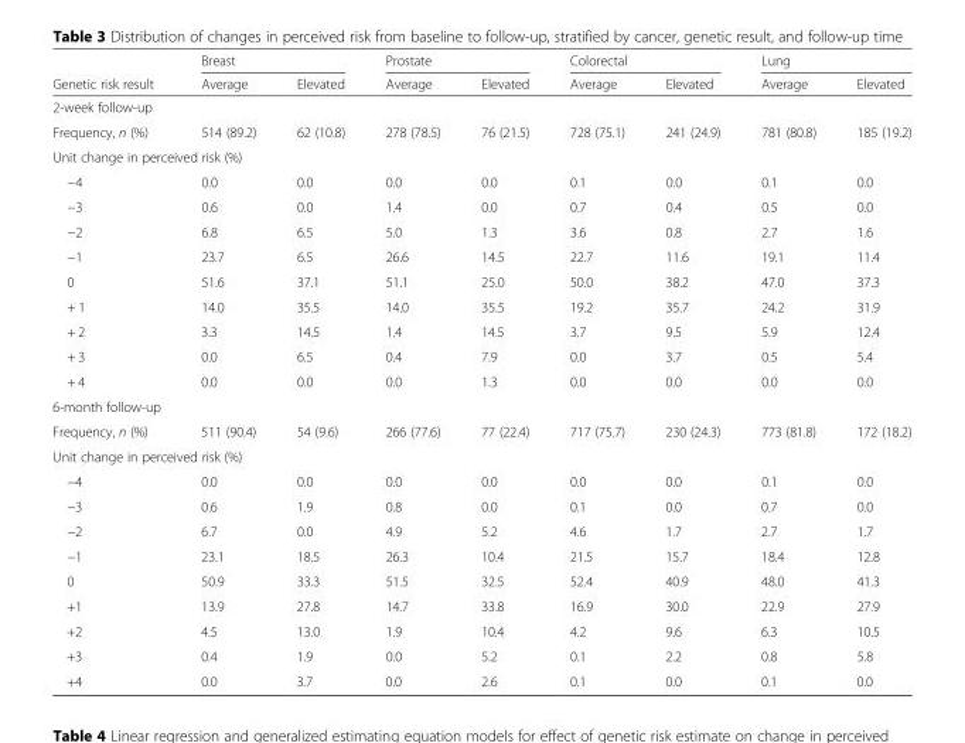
<table><thead><tr><td rowspan="2">Genetic risk result</td><td colspan="2">Breast</td><td colspan="2">Prostate</td><td colspan="2">Colorectal</td><td colspan="2">Lung</td></tr><tr><td>Average</td><td>Elevated</td><td>Average</td><td>Elevated</td><td>Average</td><td>Elevated</td><td>Average</td><td>Elevated</td></tr></thead><tbody><tr><td colspan="9">2-week follow-up</td></tr><tr><td>Frequency, n (%)</td><td>514 (89.2)</td><td>62 (10.8)</td><td>278 (78.5)</td><td>76 (21.5)</td><td>728 (75.1)</td><td>241 (24.9)</td><td>781 (80.8)</td><td>185 (19.2)</td></tr><tr><td colspan="9">Unit change in perceived risk (%)</td></tr><tr><td>−4</td><td>0.0</td><td>0.0</td><td>0.0</td><td>0.0</td><td>0.1</td><td>0.0</td><td>0.1</td><td>0.0</td></tr><tr><td>−3</td><td>0.6</td><td>0.0</td><td>1.4</td><td>0.0</td><td>0.7</td><td>0.4</td><td>0.5</td><td>0.0</td></tr><tr><td>−2</td><td>6.8</td><td>6.5</td><td>5.0</td><td>1.3</td><td>3.6</td><td>0.8</td><td>2.7</td><td>1.6</td></tr><tr><td>−1</td><td>23.7</td><td>6.5</td><td>26.6</td><td>14.5</td><td>22.7</td><td>11.6</td><td>19.1</td><td>11.4</td></tr><tr><td>0</td><td>51.6</td><td>37.1</td><td>51.1</td><td>25.0</td><td>50.0</td><td>38.2</td><td>47.0</td><td>37.3</td></tr><tr><td>+ 1</td><td>14.0</td><td>35.5</td><td>14.0</td><td>35.5</td><td>19.2</td><td>35.7</td><td>24.2</td><td>31.9</td></tr><tr><td>+ 2</td><td>3.3</td><td>14.5</td><td>1.4</td><td>14.5</td><td>3.7</td><td>9.5</td><td>5.9</td><td>12.4</td></tr><tr><td>+ 3</td><td>0.0</td><td>6.5</td><td>0.4</td><td>7.9</td><td>0.0</td><td>3.7</td><td>0.5</td><td>5.4</td></tr><tr><td>+ 4</td><td>0.0</td><td>0.0</td><td>0.0</td><td>1.3</td><td>0.0</td><td>0.0</td><td>0.0</td><td>0.0</td></tr><tr><td colspan="9">6-month follow-up</td></tr><tr><td>Frequency, n (%)</td><td>511 (90.4)</td><td>54 (9.6)</td><td>266 (77.6)</td><td>77 (22.4)</td><td>717 (75.7)</td><td>230 (24.3)</td><td>773 (81.8)</td><td>172 (18.2)</td></tr><tr><td colspan="9">Unit change in perceived risk (%)</td></tr><tr><td>−4</td><td>0.0</td><td>0.0</td><td>0.0</td><td>0.0</td><td>0.0</td><td>0.0</td><td>0.1</td><td>0.0</td></tr><tr><td>−3</td><td>0.6</td><td>1.9</td><td>0.8</td><td>0.0</td><td>0.1</td><td>0.0</td><td>0.7</td><td>0.0</td></tr><tr><td>−2</td><td>6.7</td><td>0.0</td><td>4.9</td><td>5.2</td><td>4.6</td><td>1.7</td><td>2.7</td><td>1.7</td></tr><tr><td>−1</td><td>23.1</td><td>18.5</td><td>26.3</td><td>10.4</td><td>21.5</td><td>15.7</td><td>18.4</td><td>12.8</td></tr><tr><td>0</td><td>50.9</td><td>33.3</td><td>51.5</td><td>32.5</td><td>52.4</td><td>40.9</td><td>48.0</td><td>41.3</td></tr><tr><td>+1</td><td>13.9</td><td>27.8</td><td>14.7</td><td>33.8</td><td>16.9</td><td>30.0</td><td>22.9</td><td>27.9</td></tr><tr><td>+2</td><td>4.5</td><td>13.0</td><td>1.9</td><td>10.4</td><td>4.2</td><td>9.6</td><td>6.3</td><td>10.5</td></tr><tr><td>+3</td><td>0.4</td><td>1.9</td><td>0.0</td><td>5.2</td><td>0.1</td><td>2.2</td><td>0.8</td><td>5.8</td></tr><tr><td>+4</td><td>0.0</td><td>3.7</td><td>0.0</td><td>2.6</td><td>0.1</td><td>0.0</td><td>0.1</td><td>0.0</td></tr></tbody></table>